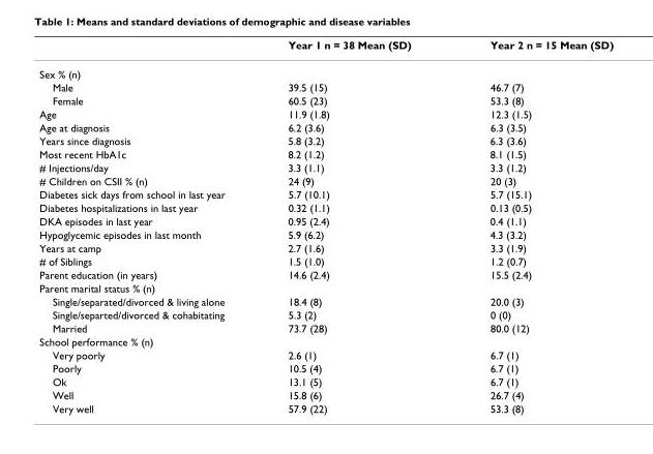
<table><thead><tr><td></td><td>Year 1 n = 38 Mean (SD)</td><td>Year 2 n = 15 Mean (SD)</td></tr></thead><tbody><tr><td colspan="3">Sex % (n)</td></tr><tr><td>Male</td><td>39.5 (15)</td><td>46.7 (7)</td></tr><tr><td>Female</td><td>60.5 (23)</td><td>53.3 (8)</td></tr><tr><td>Age</td><td>11.9 (1.8)</td><td>12.3 (1.5)</td></tr><tr><td>Age at diagnosis</td><td>6.2 (3.6)</td><td>6.3 (3.5)</td></tr><tr><td>Years since diagnosis</td><td>5.8 (3.2)</td><td>6.3 (3.6)</td></tr><tr><td>Most recent HbA1c</td><td>8.2 (1.2)</td><td>8.1 (1.5)</td></tr><tr><td># Injections/day</td><td>3.3 (1.1)</td><td>3.3 (1.2)</td></tr><tr><td># Children on CSII % (n)</td><td>24 (9)</td><td>20 (3)</td></tr><tr><td>Diabetes sick days from school in last year</td><td>5.7 (10.1)</td><td>5.7 (15.1)</td></tr><tr><td>Diabetes hospitalizations in last year</td><td>0.32 (1.1)</td><td>0.13 (0.5)</td></tr><tr><td>DKA episodes in last year</td><td>0.95 (2.4)</td><td>0.4 (1.1)</td></tr><tr><td>Hypoglycemic episodes in last month</td><td>5.9 (6.2)</td><td>4.3 (3.2)</td></tr><tr><td>Years at camp</td><td>2.7 (1.6)</td><td>3.3 (1.9)</td></tr><tr><td># of Siblings</td><td>1.5 (1.0)</td><td>1.2 (0.7)</td></tr><tr><td>Parent education (in years)</td><td>14.6 (2.4)</td><td>15.5 (2.4)</td></tr><tr><td colspan="3">Parent marital status % (n)</td></tr><tr><td>Single/separated/divorced &amp; living alone</td><td>18.4 (8)</td><td>20.0 (3)</td></tr><tr><td>Single/separted/divorced &amp; cohabitating</td><td>5.3 (2)</td><td>0 (0)</td></tr><tr><td>Married</td><td>73.7 (28)</td><td>80.0 (12)</td></tr><tr><td colspan="3">School performance % (n)</td></tr><tr><td>Very poorly</td><td>2.6 (1)</td><td>6.7 (1)</td></tr><tr><td>Poorly</td><td>10.5 (4)</td><td>6.7 (1)</td></tr><tr><td>Ok</td><td>13.1 (5)</td><td>6.7 (1)</td></tr><tr><td>Well</td><td>15.8 (6)</td><td>26.7 (4)</td></tr><tr><td>Very well</td><td>57.9 (22)</td><td>53.3 (8)</td></tr></tbody></table>